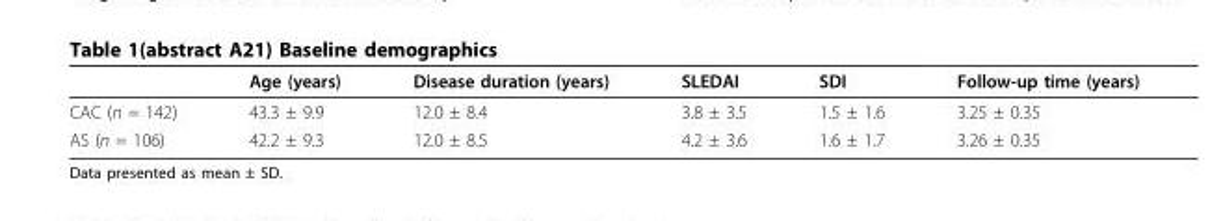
<table><thead><tr><td></td><td>Age (years)</td><td>Disease duration (years)</td><td>SLEDAI</td><td>SDI</td><td>Follow-up time (years)</td></tr></thead><tbody><tr><td>CAC (n = 142)</td><td>43.3 ± 9.9</td><td>12.0 ± 8.4</td><td>3.8 ± 3.5</td><td>1.5 ± 1.6</td><td>3.25 ± 0.35</td></tr><tr><td>AS (n = 106)</td><td>42.2 ± 9.3</td><td>12.0 ± 8.5</td><td>4.2 ± 3.6</td><td>1.6 ± 1.7</td><td>3.26 ± 0.35</td></tr></tbody></table>